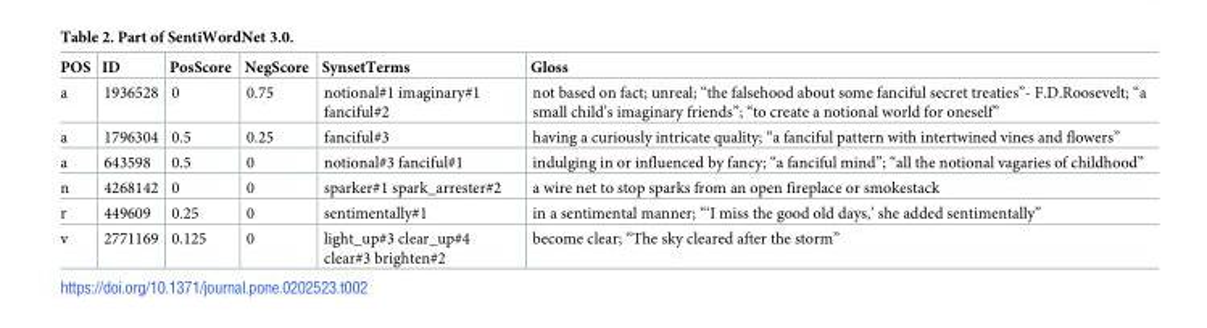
<table><thead><tr><td>POS</td><td>ID</td><td>PosScore</td><td>NegScore</td><td>SynsetTerms</td><td>Gloss</td></tr></thead><tbody><tr><td>a</td><td>1936528</td><td>0</td><td>0.75</td><td>notional#1 imaginary#1 fanciful#2</td><td>not based on fact; unreal; “the falsehood about some fanciful secret treaties”- F.D.Roosevelt; “a small child’s imaginary friends”; “to create a notional world for oneself”</td></tr><tr><td>a</td><td>1796304</td><td>0.5</td><td>0.25</td><td>fanciful#3</td><td>having a curiously intricate quality; “a fanciful pattern with intertwined vines and flowers”</td></tr><tr><td>a</td><td>643598</td><td>0.5</td><td>0</td><td>notional#3 fanciful#1</td><td>indulging in or influenced by fancy; “a fanciful mind”; “all the notional vagaries of childhood”</td></tr><tr><td>n</td><td>4268142</td><td>0</td><td>0</td><td>sparker#1 spark_arrester#2</td><td>a wire net to stop sparks from an open fireplace or smokestack</td></tr><tr><td>r</td><td>449609</td><td>0.25</td><td>0</td><td>sentimentally#1</td><td>in a sentimental manner; “‘I miss the good old days,’ she added sentimentally”</td></tr><tr><td>v</td><td>2771169</td><td>0.125</td><td>0</td><td>light_up#3 clear_up#4 clear#3 brighten#2</td><td>become clear; “The sky cleared after the storm”</td></tr></tbody></table>